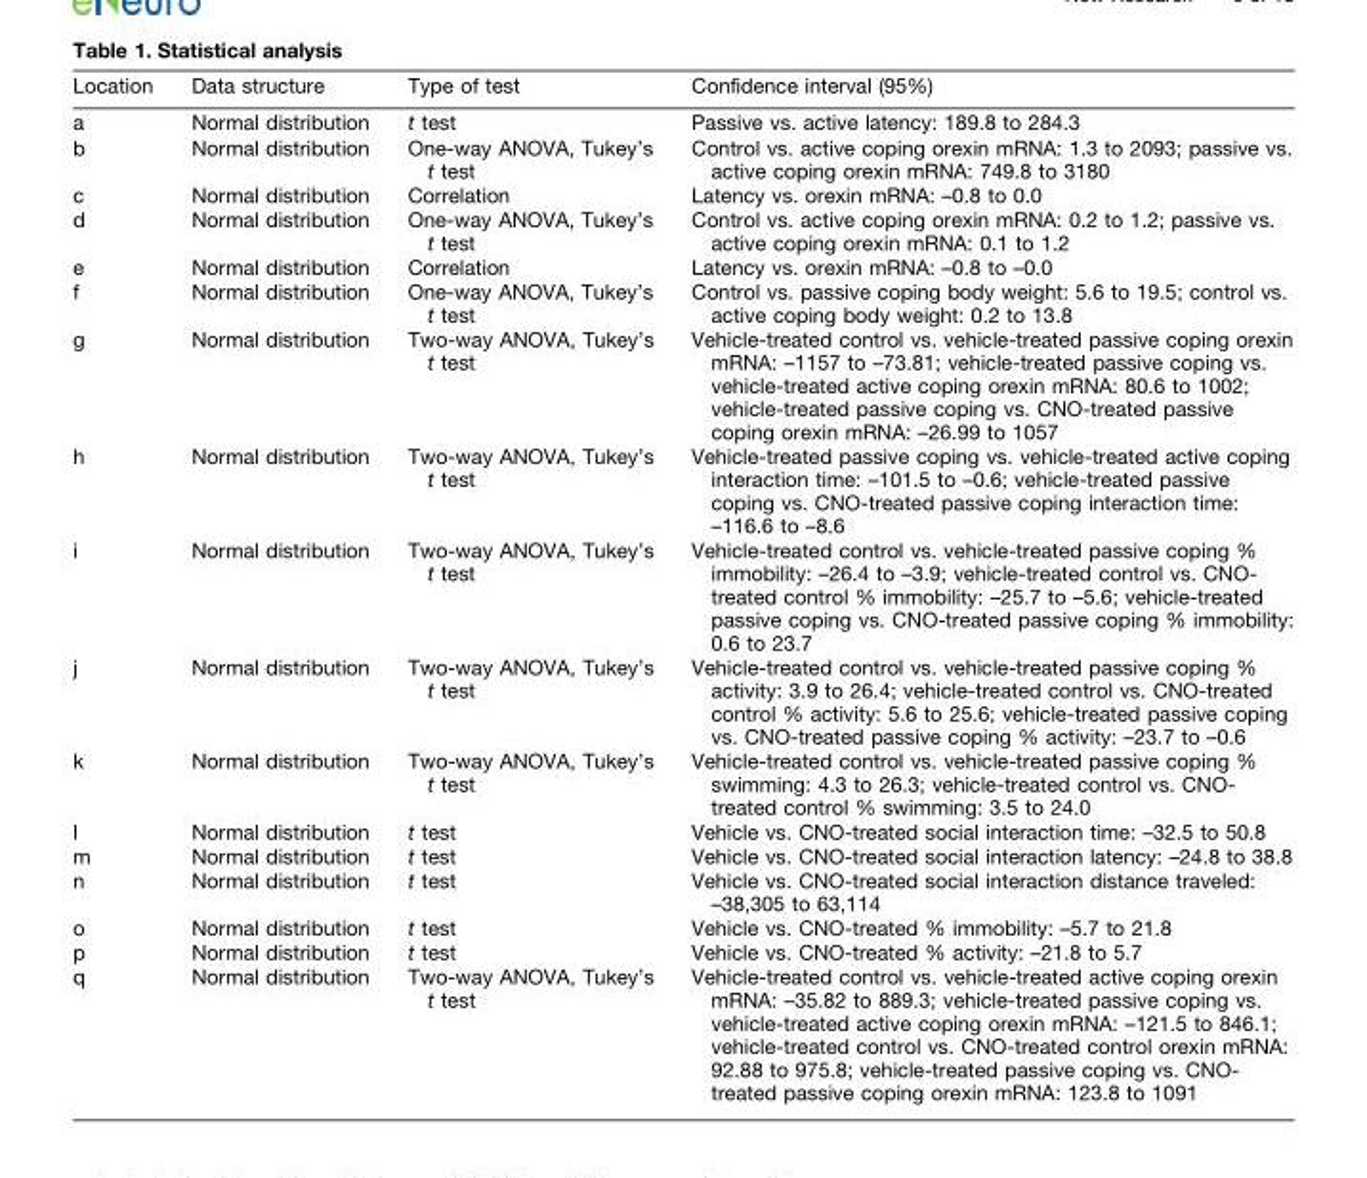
<table><thead><tr><td>Location</td><td>Data structure</td><td>Type of test</td><td>Confidence interval (95%)</td></tr></thead><tbody><tr><td>a</td><td>Normal distribution</td><td>t test</td><td>Passive vs. active latency: 189.8 to 284.3</td></tr><tr><td>b</td><td>Normal distribution</td><td>One-way ANOVA, Tukey’s t test</td><td>Control vs. active coping orexin mRNA: 1.3 to 2093; passive vs. active coping orexin mRNA: 749.8 to 3180</td></tr><tr><td>c</td><td>Normal distribution</td><td>Correlation</td><td>Latency vs. orexin mRNA: –0.8 to 0.0</td></tr><tr><td>d</td><td>Normal distribution</td><td>One-way ANOVA, Tukey’s t test</td><td>Control vs. active coping orexin mRNA: 0.2 to 1.2; passive vs. active coping orexin mRNA: 0.1 to 1.2</td></tr><tr><td>e</td><td>Normal distribution</td><td>Correlation</td><td>Latency vs. orexin mRNA: –0.8 to –0.0</td></tr><tr><td>f</td><td>Normal distribution</td><td>One-way ANOVA, Tukey’s t test</td><td>Control vs. passive coping body weight: 5.6 to 19.5; control vs. active coping body weight: 0.2 to 13.8</td></tr><tr><td>g</td><td>Normal distribution</td><td>Two-way ANOVA, Tukey’s t test</td><td>Vehicle-treated control vs. vehicle-treated passive coping orexin mRNA: –1157 to –73.81; vehicle-treated passive coping vs. vehicle-treated active coping orexin mRNA: 80.6 to 1002; vehicle-treated passive coping vs. CNO-treated passive coping orexin mRNA: –26.99 to 1057</td></tr><tr><td>h</td><td>Normal distribution</td><td>Two-way ANOVA, Tukey’s t test</td><td>Vehicle-treated passive coping vs. vehicle-treated active coping interaction time: –101.5 to –0.6; vehicle-treated passive coping vs. CNO-treated passive coping interaction time: –116.6 to –8.6</td></tr><tr><td>i</td><td>Normal distribution</td><td>Two-way ANOVA, Tukey’s t test</td><td>Vehicle-treated control vs. vehicle-treated passive coping % immobility: –26.4 to –3.9; vehicle-treated control vs. CNO- treated control % immobility: –25.7 to –5.6; vehicle-treated passive coping vs. CNO-treated passive coping % immobility: 0.6 to 23.7</td></tr><tr><td>j</td><td>Normal distribution</td><td>Two-way ANOVA, Tukey’s t test</td><td>Vehicle-treated control vs. vehicle-treated passive coping % activity: 3.9 to 26.4; vehicle-treated control vs. CNO-treated control % activity: 5.6 to 25.6; vehicle-treated passive coping vs. CNO-treated passive coping % activity: –23.7 to –0.6</td></tr><tr><td>k</td><td>Normal distribution</td><td>Two-way ANOVA, Tukey’s t test</td><td>Vehicle-treated control vs. vehicle-treated passive coping % swimming: 4.3 to 26.3; vehicle-treated control vs. CNO- treated control % swimming: 3.5 to 24.0</td></tr><tr><td>l</td><td>Normal distribution</td><td>t test</td><td>Vehicle vs. CNO-treated social interaction time: –32.5 to 50.8</td></tr><tr><td>m</td><td>Normal distribution</td><td>t test</td><td>Vehicle vs. CNO-treated social interaction latency: –24.8 to 38.8</td></tr><tr><td>n</td><td>Normal distribution</td><td>t test</td><td>Vehicle vs. CNO-treated social interaction distance traveled: –38,305 to 63,114</td></tr><tr><td>o</td><td>Normal distribution</td><td>t test</td><td>Vehicle vs. CNO-treated % immobility: –5.7 to 21.8</td></tr><tr><td>p</td><td>Normal distribution</td><td>t test</td><td>Vehicle vs. CNO-treated % activity: –21.8 to 5.7</td></tr><tr><td>q</td><td>Normal distribution</td><td>Two-way ANOVA, Tukey’s t test</td><td>Vehicle-treated control vs. vehicle-treated active coping orexin mRNA: –35.82 to 889.3; vehicle-treated passive coping vs. vehicle-treated active coping orexin mRNA: –121.5 to 846.1; vehicle-treated control vs. CNO-treated control orexin mRNA: 92.88 to 975.8; vehicle-treated passive coping vs. CNO- treated passive coping orexin mRNA: 123.8 to 1091</td></tr></tbody></table>